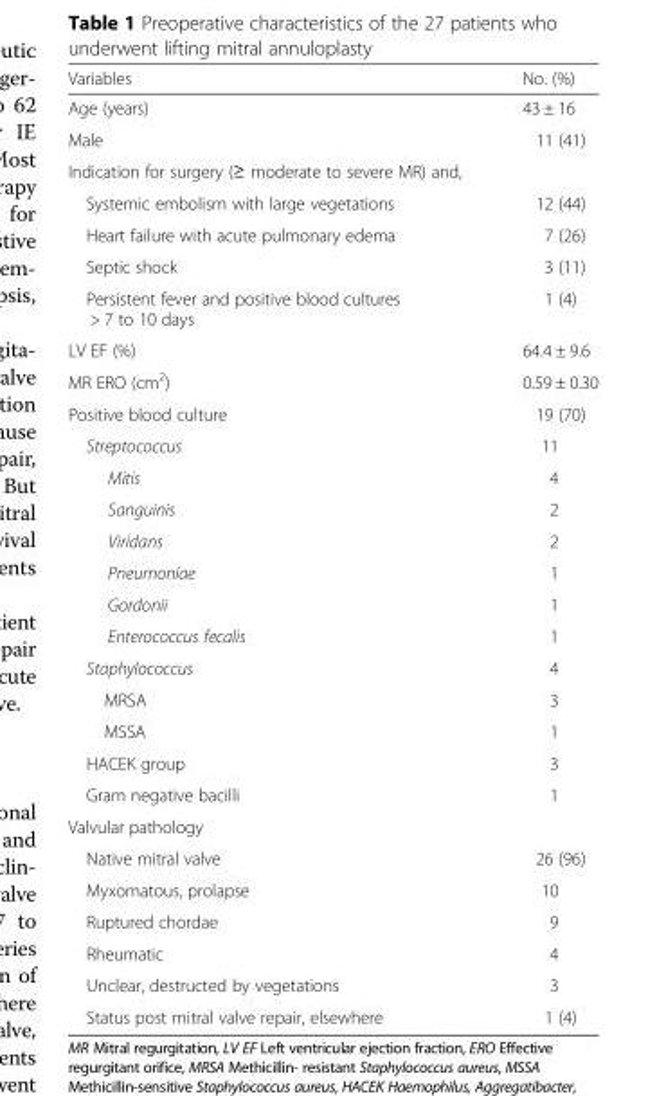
<table><thead><tr><td>Variables</td><td>No. (%)</td></tr></thead><tbody><tr><td>Age (years)</td><td>43 ± 16</td></tr><tr><td>Male</td><td>11 (41)</td></tr><tr><td colspan="2">Indication for surgery (≥ moderate to severe MR) and,</td></tr><tr><td>Systemic embolism with large vegetations</td><td>12 (44)</td></tr><tr><td>Heart failure with acute pulmonary edema</td><td>7 (26)</td></tr><tr><td>Septic shock</td><td>3 (11)</td></tr><tr><td>Persistent fever and positive blood cultures &gt; 7 to 10 days</td><td>1 (4)</td></tr><tr><td>LV EF (%)</td><td>64.4 ± 9.6</td></tr><tr><td>MR ERO (cm<sup>2</sup>)</td><td>0.59 ± 0.30</td></tr><tr><td>Positive blood culture</td><td>19 (70)</td></tr><tr><td>Streptococcus</td><td>11</td></tr><tr><td>Mitis</td><td>4</td></tr><tr><td>Sanguinis</td><td>2</td></tr><tr><td>Viridans</td><td>2</td></tr><tr><td>Pneumoniae</td><td>1</td></tr><tr><td>Gordonii</td><td>1</td></tr><tr><td>Enterococcus fecalis</td><td>1</td></tr><tr><td>Staphylococcus</td><td>4</td></tr><tr><td>MRSA</td><td>3</td></tr><tr><td>MSSA</td><td>1</td></tr><tr><td>HACEK group</td><td>3</td></tr><tr><td>Gram negative bacilli</td><td>1</td></tr><tr><td colspan="2">Valvular pathology</td></tr><tr><td>Native mitral valve</td><td>26 (96)</td></tr><tr><td>Myxomatous, prolapse</td><td>10</td></tr><tr><td>Ruptured chordae</td><td>9</td></tr><tr><td>Rheumatic</td><td>4</td></tr><tr><td>Unclear, destructed by vegetations</td><td>3</td></tr><tr><td>Status post mitral valve repair, elsewhere</td><td>1 (4)</td></tr></tbody></table>